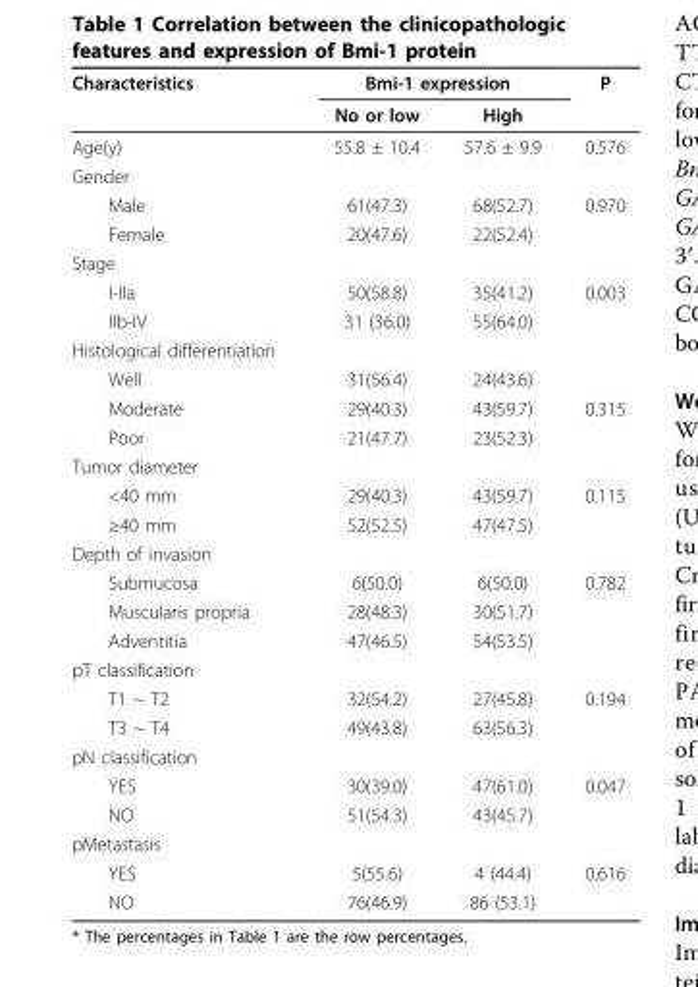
<table><thead><tr><td rowspan="2">Characteristics</td><td colspan="2">Bmi-1 expression</td><td rowspan="2">P</td></tr><tr><td>No or low</td><td>High</td></tr></thead><tbody><tr><td>Age(y)</td><td>55.8 ± 10.4</td><td>57.6 ± 9.9</td><td>0.576</td></tr><tr><td colspan="4">Gender</td></tr><tr><td>Male</td><td>61(47.3)</td><td>68(52.7)</td><td>0.970</td></tr><tr><td>Female</td><td>20(47.6)</td><td>22(52.4)</td><td></td></tr><tr><td colspan="4">Stage</td></tr><tr><td>I-IIa</td><td>50(58.8)</td><td>35(41.2)</td><td>0.003</td></tr><tr><td>IIb-IV</td><td>31 (36.0)</td><td>55(64.0)</td><td></td></tr><tr><td colspan="4">Histological differentiation</td></tr><tr><td>Well</td><td>31(56.4)</td><td>24(43.6)</td><td></td></tr><tr><td>Moderate</td><td>29(40.3)</td><td>43(59.7)</td><td>0.315</td></tr><tr><td>Poor</td><td>21(47.7)</td><td>23(52.3)</td><td></td></tr><tr><td colspan="4">Tumor diameter</td></tr><tr><td>&lt;40 mm</td><td>29(40.3)</td><td>43(59.7)</td><td>0.115</td></tr><tr><td>≥40 mm</td><td>52(52.5)</td><td>47(47.5)</td><td></td></tr><tr><td colspan="4">Depth of invasion</td></tr><tr><td>Submucosa</td><td>6(50.0)</td><td>6(50.0)</td><td>0.782</td></tr><tr><td>Muscularis propria</td><td>28(48.3)</td><td>30(51.7)</td><td></td></tr><tr><td>Adventitia</td><td>47(46.5)</td><td>54(53.5)</td><td></td></tr><tr><td colspan="4">pT classification</td></tr><tr><td>T1 ~ T2</td><td>32(54.2)</td><td>27(45.8)</td><td>0.194</td></tr><tr><td>T3 ~ T4</td><td>49(43.8)</td><td>63(56.3)</td><td></td></tr><tr><td colspan="4">pN classification</td></tr><tr><td>YES</td><td>30(39.0)</td><td>47(61.0)</td><td>0.047</td></tr><tr><td>NO</td><td>51(54.3)</td><td>43(45.7)</td><td></td></tr><tr><td colspan="4">pMetastasis</td></tr><tr><td>YES</td><td>5(55.6)</td><td>4 (44.4)</td><td>0.616</td></tr><tr><td>NO</td><td>76(46.9)</td><td>86 (53.1)</td><td></td></tr></tbody></table>